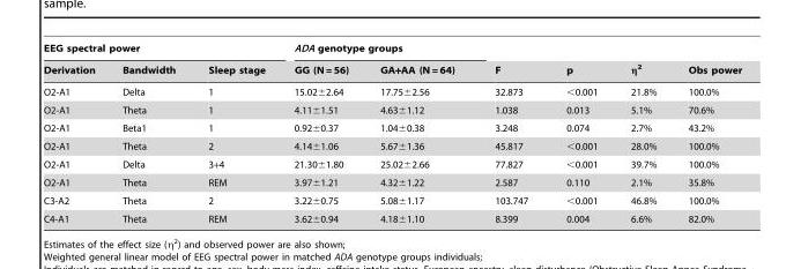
<table><thead><tr><td colspan="3">EEG spectral power</td><td colspan="2">ADA genotype groups</td><td rowspan="2">F</td><td rowspan="2">p</td><td rowspan="2">η<sup>2</sup></td><td rowspan="2">Obs power</td></tr><tr><td>Derivation</td><td>Bandwidth</td><td>Sleep stage</td><td>GG (N = 56)</td><td>GA+AA (N = 64)</td></tr></thead><tbody><tr><td>O2-A1</td><td>Delta</td><td>1</td><td>15.02±2.64</td><td>17.75±2.56</td><td>32.873</td><td>&lt;0.001</td><td>21.8%</td><td>100.0%</td></tr><tr><td>O2-A1</td><td>Theta</td><td>1</td><td>4.11±1.51</td><td>4.63±1.12</td><td>1.038</td><td>0.013</td><td>5.1%</td><td>70.6%</td></tr><tr><td>O2-A1</td><td>Beta1</td><td>1</td><td>0.92±0.37</td><td>1.04±0.38</td><td>3.248</td><td>0.074</td><td>2.7%</td><td>43.2%</td></tr><tr><td>O2-A1</td><td>Theta</td><td>2</td><td>4.14±1.06</td><td>5.67±1.36</td><td>45.817</td><td>&lt;0.001</td><td>28.0%</td><td>100.0%</td></tr><tr><td>O2-A1</td><td>Delta</td><td>3+4</td><td>21.30±1.80</td><td>25.02±2.66</td><td>77.827</td><td>&lt;0.001</td><td>39.7%</td><td>100.0%</td></tr><tr><td>O2-A1</td><td>Theta</td><td>REM</td><td>3.97±1.21</td><td>4.32±1.22</td><td>2.587</td><td>0.110</td><td>2.1%</td><td>35.8%</td></tr><tr><td>C3-A2</td><td>Theta</td><td>2</td><td>3.22±0.75</td><td>5.08±1.17</td><td>103.747</td><td>&lt;0.001</td><td>46.8%</td><td>100.0%</td></tr><tr><td>C4-A1</td><td>Theta</td><td>REM</td><td>3.62±0.94</td><td>4.18±1.10</td><td>8.399</td><td>0.004</td><td>6.6%</td><td>82.0%</td></tr></tbody></table>